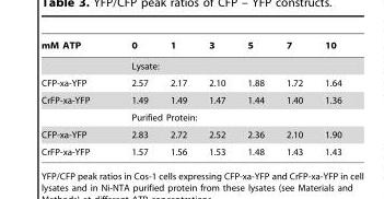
<table><thead><tr><td>mM ATP</td><td>0</td><td>1</td><td>3</td><td>5</td><td>7</td><td>10</td></tr></thead><tbody><tr><td></td><td colspan="6">Lysate:</td></tr><tr><td>CFP-xa-YFP</td><td>2.57</td><td>2.17</td><td>2.10</td><td>1.88</td><td>1.72</td><td>1.64</td></tr><tr><td rowspan="2">CrFP-xa-YFP</td><td>1.49</td><td>1.49</td><td>1.47</td><td>1.44</td><td>1.40</td><td>1.36</td></tr><tr><td colspan="6">Purified Protein:</td></tr><tr><td>CFP-xa-YFP</td><td>2.83</td><td>2.72</td><td>2.52</td><td>2.36</td><td>2.10</td><td>1.90</td></tr><tr><td>CrFP-xa-YFP</td><td>1.57</td><td>1.56</td><td>1.53</td><td>1.48</td><td>1.43</td><td>1.43</td></tr></tbody></table>